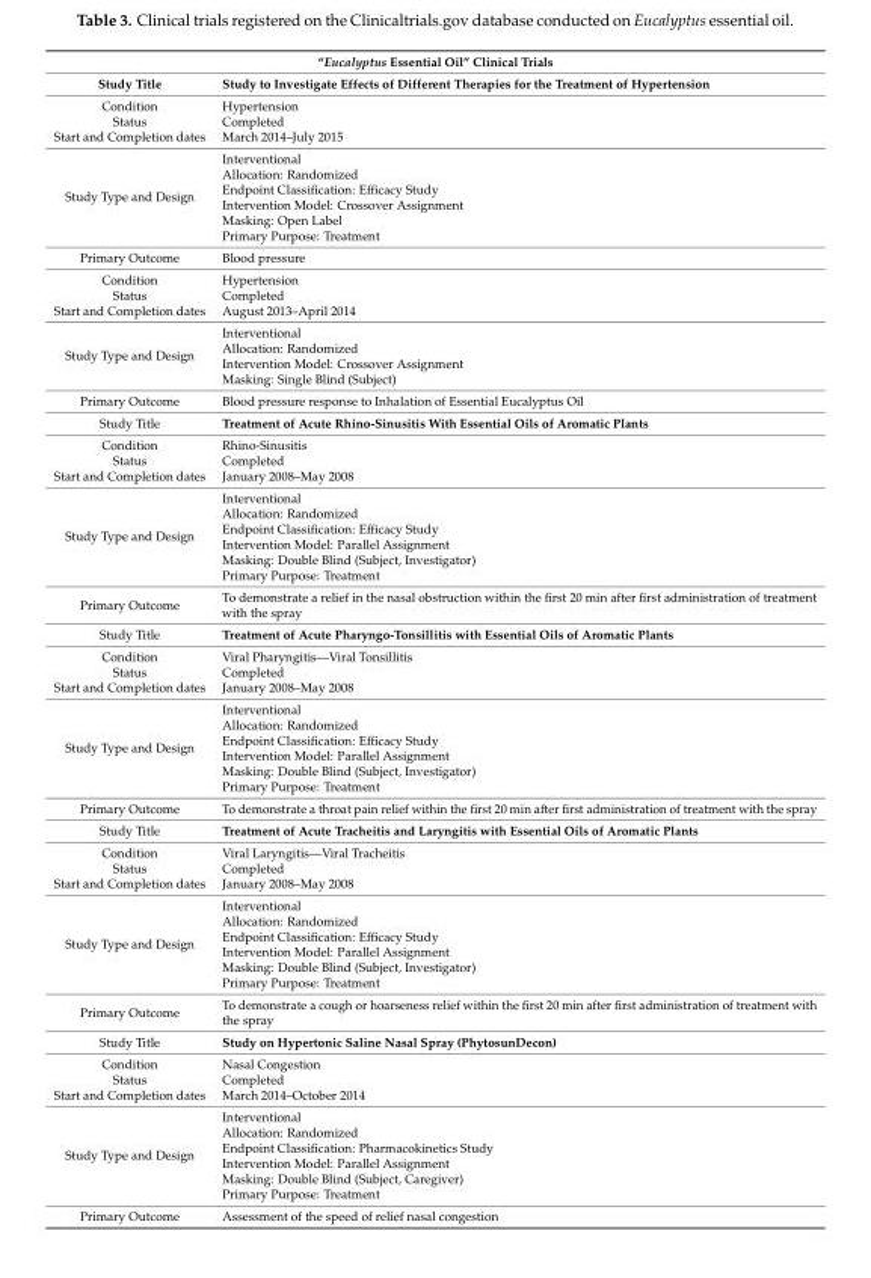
<table><thead><tr><td colspan="2">“Eucalyptus Essential Oil” Clinical Trials</td></tr><tr><td>Study Title</td><td>Study to Investigate Effects of Different Therapies for the Treatment of Hypertension</td></tr></thead><tbody><tr><td>Condition</td><td>Hypertension</td></tr><tr><td>Status</td><td>Completed</td></tr><tr><td>Start and Completion dates</td><td>March 2014–July 2015</td></tr><tr><td rowspan="6">Study Type and Design</td><td>Interventional</td></tr><tr><td>Allocation: Randomized</td></tr><tr><td>Endpoint Classification: Efficacy Study</td></tr><tr><td>Intervention Model: Crossover Assignment</td></tr><tr><td>Masking: Open Label</td></tr><tr><td>Primary Purpose: Treatment</td></tr><tr><td>Primary Outcome</td><td>Blood pressure</td></tr><tr><td>Condition</td><td>Hypertension</td></tr><tr><td>Status</td><td>Completed</td></tr><tr><td>Start and Completion dates</td><td>August 2013–April 2014</td></tr><tr><td rowspan="4">Study Type and Design</td><td>Interventional</td></tr><tr><td>Allocation: Randomized</td></tr><tr><td>Intervention Model: Crossover Assignment</td></tr><tr><td>Masking: Single Blind (Subject)</td></tr><tr><td>Primary Outcome</td><td>Blood pressure response to Inhalation of Essential Eucalyptus Oil</td></tr><tr><td>Study Title</td><td>Treatment of Acute Rhino-Sinusitis With Essential Oils of Aromatic Plants</td></tr><tr><td>Condition</td><td>Rhino-Sinusitis</td></tr><tr><td>Status</td><td>Completed</td></tr><tr><td>Start and Completion dates</td><td>January 2008–May 2008</td></tr><tr><td rowspan="6">Study Type and Design</td><td>Interventional</td></tr><tr><td>Allocation: Randomized</td></tr><tr><td>Endpoint Classification: Efficacy Study</td></tr><tr><td>Intervention Model: Parallel Assignment</td></tr><tr><td>Masking: Double Blind (Subject, Investigator)</td></tr><tr><td>Primary Purpose: Treatment</td></tr><tr><td>Primary Outcome</td><td>To demonstrate a relief in the nasal obstruction within the first 20 min after first administration of treatment with the spray</td></tr><tr><td>Study Title</td><td>Treatment of Acute Pharyngo-Tonsillitis with Essential Oils of Aromatic Plants</td></tr><tr><td>Condition</td><td>Viral Pharyngitis—Viral Tonsillitis</td></tr><tr><td>Status</td><td>Completed</td></tr><tr><td>Start and Completion dates</td><td>January 2008–May 2008</td></tr><tr><td rowspan="6">Study Type and Design</td><td>Interventional</td></tr><tr><td>Allocation: Randomized</td></tr><tr><td>Endpoint Classification: Efficacy Study</td></tr><tr><td>Intervention Model: Parallel Assignment</td></tr><tr><td>Masking: Double Blind (Subject, Investigator)</td></tr><tr><td>Primary Purpose: Treatment</td></tr><tr><td>Primary Outcome</td><td>To demonstrate a throat pain relief within the first 20 min after first administration of treatment with the spray</td></tr><tr><td>Study Title</td><td>Treatment of Acute Tracheitis and Laryngitis with Essential Oils of Aromatic Plants</td></tr><tr><td>Condition</td><td>Viral Laryngitis—Viral Tracheitis</td></tr><tr><td>Status</td><td>Completed</td></tr><tr><td>Start and Completion dates</td><td>January 2008–May 2008</td></tr><tr><td rowspan="6">Study Type and Design</td><td>Interventional</td></tr><tr><td>Allocation: Randomized</td></tr><tr><td>Endpoint Classification: Efficacy Study</td></tr><tr><td>Intervention Model: Parallel Assignment</td></tr><tr><td>Masking: Double Blind (Subject, Investigator)</td></tr><tr><td>Primary Purpose: Treatment</td></tr><tr><td>Primary Outcome</td><td>To demonstrate a cough or hoarseness relief within the first 20 min after first administration of treatment with the spray</td></tr><tr><td>Study Title</td><td>Study on Hypertonic Saline Nasal Spray (PhytosunDecon)</td></tr><tr><td>Condition</td><td>Nasal Congestion</td></tr><tr><td>Status</td><td>Completed</td></tr><tr><td>Start and Completion dates</td><td>March 2014–October 2014</td></tr><tr><td rowspan="6">Study Type and Design</td><td>Interventional</td></tr><tr><td>Allocation: Randomized</td></tr><tr><td>Endpoint Classification: Pharmacokinetics Study</td></tr><tr><td>Intervention Model: Parallel Assignment</td></tr><tr><td>Masking: Double Blind (Subject, Caregiver)</td></tr><tr><td>Primary Purpose: Treatment</td></tr><tr><td>Primary Outcome</td><td>Assessment of the speed of relief nasal congestion</td></tr></tbody></table>